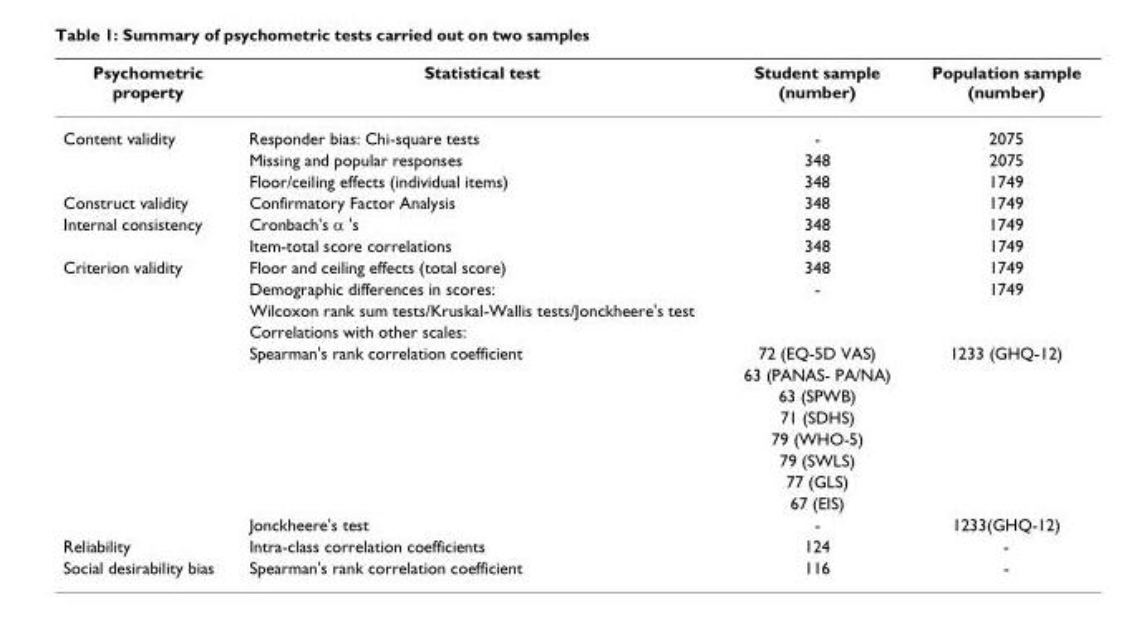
<table><thead><tr><td>Psychometric property</td><td>Statistical test</td><td>Student sample (number)</td><td>Population sample (number)</td></tr></thead><tbody><tr><td rowspan="3">Content validity</td><td>Responder bias: Chi-square tests</td><td>-</td><td>2075</td></tr><tr><td>Missing and popular responses</td><td>348</td><td>2075</td></tr><tr><td>Floor/ceiling effects (individual items)</td><td>348</td><td>1749</td></tr><tr><td>Construct validity</td><td>Confirmatory Factor Analysis</td><td>348</td><td>1749</td></tr><tr><td rowspan="2">Internal consistency</td><td>Cronbach&#x27;s α &#x27;s</td><td>348</td><td>1749</td></tr><tr><td>Item-total score correlations</td><td>348</td><td>1749</td></tr><tr><td rowspan="13">Criterion validity</td><td>Floor and ceiling effects (total score)</td><td>348</td><td>1749</td></tr><tr><td>Demographic differences in scores:</td><td>-</td><td>1749</td></tr><tr><td>Wilcoxon rank sum tests/Kruskal-Wallis tests/Jonckheere&#x27;s test</td><td></td><td></td></tr><tr><td>Correlations with other scales:</td><td></td><td></td></tr><tr><td>Spearman&#x27;s rank correlation coefficient</td><td>72 (EQ-5D VAS)</td><td>1233 (GHQ-12)</td></tr><tr><td></td><td>63 (PANAS- PA/NA)</td><td></td></tr><tr><td></td><td>63 (SPWB)</td><td></td></tr><tr><td></td><td>71 (SDHS)</td><td></td></tr><tr><td></td><td>79 (WHO-5)</td><td></td></tr><tr><td></td><td>79 (SWLS)</td><td></td></tr><tr><td></td><td>77 (GLS)</td><td></td></tr><tr><td></td><td>67 (EIS)</td><td></td></tr><tr><td>Jonckheere&#x27;s test</td><td>-</td><td>1233(GHQ-12)</td></tr><tr><td>Reliability</td><td>Intra-class correlation coefficients</td><td>124</td><td>-</td></tr><tr><td>Social desirability bias</td><td>Spearman&#x27;s rank correlation coefficient</td><td>116</td><td>-</td></tr></tbody></table>